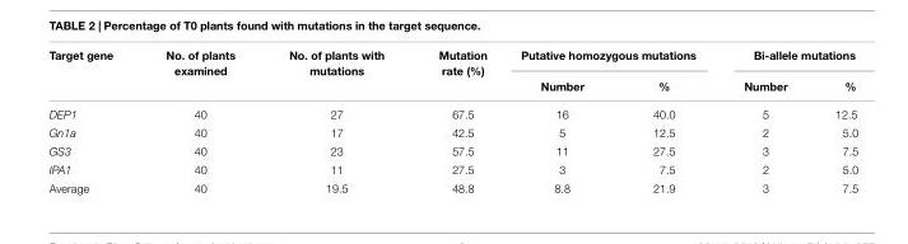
<table><thead><tr><td rowspan="2">Target gene</td><td rowspan="2">No. of plants examined</td><td rowspan="2">No. of plants with mutations</td><td rowspan="2">Mutation rate (%)</td><td colspan="2">Putative homozygous mutations</td><td colspan="2">Bi-allele mutations</td></tr><tr><td>Number</td><td>%</td><td>Number</td><td>%</td></tr></thead><tbody><tr><td>DEP1</td><td>40</td><td>27</td><td>67.5</td><td>16</td><td>40.0</td><td>5</td><td>12.5</td></tr><tr><td>Gn1a</td><td>40</td><td>17</td><td>42.5</td><td>5</td><td>12.5</td><td>2</td><td>5.0</td></tr><tr><td>GS3</td><td>40</td><td>23</td><td>57.5</td><td>11</td><td>27.5</td><td>3</td><td>7.5</td></tr><tr><td>IPA1</td><td>40</td><td>11</td><td>27.5</td><td>3</td><td>7.5</td><td>2</td><td>5.0</td></tr><tr><td>Average</td><td>40</td><td>19.5</td><td>48.8</td><td>8.8</td><td>21.9</td><td>3</td><td>7.5</td></tr></tbody></table>